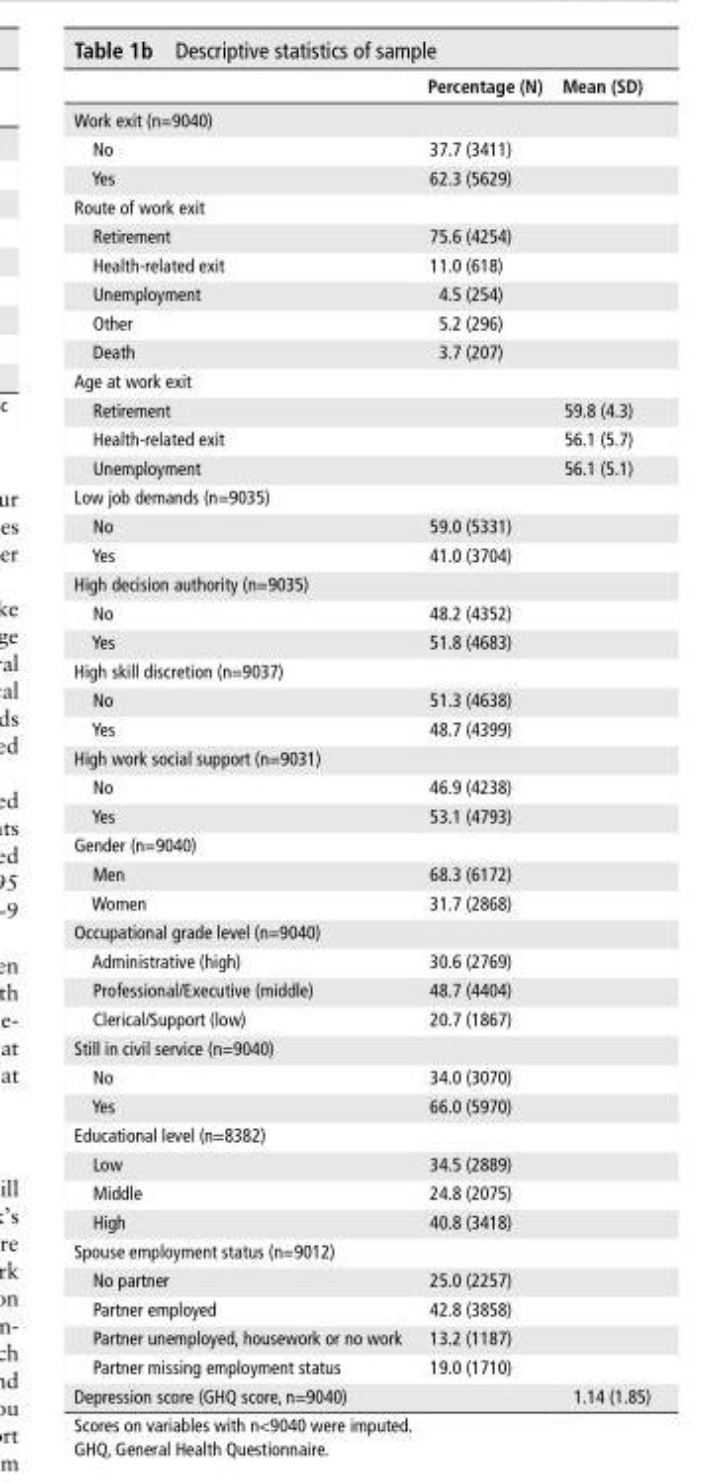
<table><thead><tr><td></td><td>Percentage (n)</td><td>Mean (sd)</td></tr></thead><tbody><tr><td colspan="3">Work exit (n=9040)</td></tr><tr><td>No</td><td>37.7 (3411)</td><td></td></tr><tr><td>Yes</td><td>62.3 (5629)</td><td></td></tr><tr><td colspan="3">Route of work exit</td></tr><tr><td>Retirement</td><td>75.6 (4254)</td><td></td></tr><tr><td>Health-related exit</td><td>11.0 (618)</td><td></td></tr><tr><td>Unemployment</td><td>4.5 (254)</td><td></td></tr><tr><td>Other</td><td>5.2 (296)</td><td></td></tr><tr><td>Death</td><td>3.7 (207)</td><td></td></tr><tr><td colspan="3">Age at work exit</td></tr><tr><td>Retirement</td><td></td><td>59.8 (4.3)</td></tr><tr><td>Health-related exit</td><td></td><td>56.1 (5.7)</td></tr><tr><td>Unemployment</td><td></td><td>56.1 (5.1)</td></tr><tr><td colspan="3">Low job demands (n=9035)</td></tr><tr><td>No</td><td>59.0 (5331)</td><td></td></tr><tr><td>Yes</td><td>41.0 (3704)</td><td></td></tr><tr><td colspan="3">High decision authority (n=9035)</td></tr><tr><td>No</td><td>48.2 (4352)</td><td></td></tr><tr><td>Yes</td><td>51.8 (4683)</td><td></td></tr><tr><td colspan="3">High skill discretion (n=9037)</td></tr><tr><td>No</td><td>51.3 (4638)</td><td></td></tr><tr><td>Yes</td><td>48.7 (4399)</td><td></td></tr><tr><td colspan="3">High work social support (n=9031)</td></tr><tr><td>No</td><td>46.9 (4238)</td><td></td></tr><tr><td>Yes</td><td>53.1 (4793)</td><td></td></tr><tr><td colspan="3">Gender (n=9040)</td></tr><tr><td>Men</td><td>68.3 (6172)</td><td></td></tr><tr><td>Women</td><td>31.7 (2868)</td><td></td></tr><tr><td colspan="3">Occupational grade level (n=9040)</td></tr><tr><td>Administrative (high)</td><td>30.6 (2769)</td><td></td></tr><tr><td>Professional/Executive (middle)</td><td>48.7 (4404)</td><td></td></tr><tr><td>Clerical/Support (low)</td><td>20.7 (1867)</td><td></td></tr><tr><td colspan="3">Still in civil service (n=9040)</td></tr><tr><td>No</td><td>34.0 (3070)</td><td></td></tr><tr><td>Yes</td><td>66.0 (5970)</td><td></td></tr><tr><td colspan="3">Educational level (n=8382)</td></tr><tr><td>Low</td><td>34.5 (2889)</td><td></td></tr><tr><td>Middle</td><td>24.8 (2075)</td><td></td></tr><tr><td>High</td><td>40.8 (3418)</td><td></td></tr><tr><td colspan="3">Spouse employment status (n=9012)</td></tr><tr><td>No partner</td><td>25.0 (2257)</td><td></td></tr><tr><td>Partner employed</td><td>42.8 (3858)</td><td></td></tr><tr><td>Partner unemployed, housework or no work</td><td>13.2 (1187)</td><td></td></tr><tr><td>Partner missing employment status</td><td>19.0 (1710)</td><td></td></tr><tr><td>Depression score (GHQ score, n=9040)</td><td></td><td>1.14 (1.85)</td></tr></tbody></table>